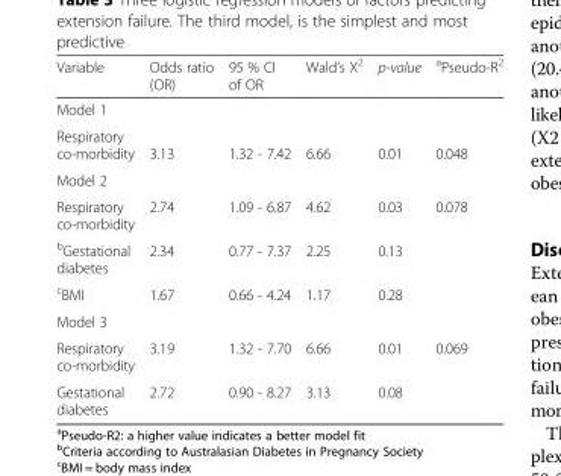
<table><thead><tr><td>Variable</td><td>Odds ratio (OR)</td><td>95 % CI of OR</td><td>Wald’s X<sup>2</sup></td><td>p-value</td><td><sup>a</sup>Pseudo-R<sup>2</sup></td></tr></thead><tbody><tr><td colspan="6">Model 1</td></tr><tr><td>Respiratory co-morbidity</td><td>3.13</td><td>1.32 - 7.42</td><td>6.66</td><td>0.01</td><td>0.048</td></tr><tr><td colspan="6">Model 2</td></tr><tr><td>Respiratory co-morbidity</td><td>2.74</td><td>1.09 - 6.87</td><td>4.62</td><td>0.03</td><td>0.078</td></tr><tr><td><sup>b</sup>Gestational diabetes</td><td>2.34</td><td>0.77 - 7.37</td><td>2.25</td><td>0.13</td><td></td></tr><tr><td><sup>c</sup>BMI</td><td>1.67</td><td>0.66 - 4.24</td><td>1.17</td><td>0.28</td><td></td></tr><tr><td colspan="6">Model 3</td></tr><tr><td>Respiratory co-morbidity</td><td>3.19</td><td>1.32 - 7.70</td><td>6.66</td><td>0.01</td><td>0.069</td></tr><tr><td>Gestational diabetes</td><td>2.72</td><td>0.90 - 8.27</td><td>3.13</td><td>0.08</td><td></td></tr></tbody></table>